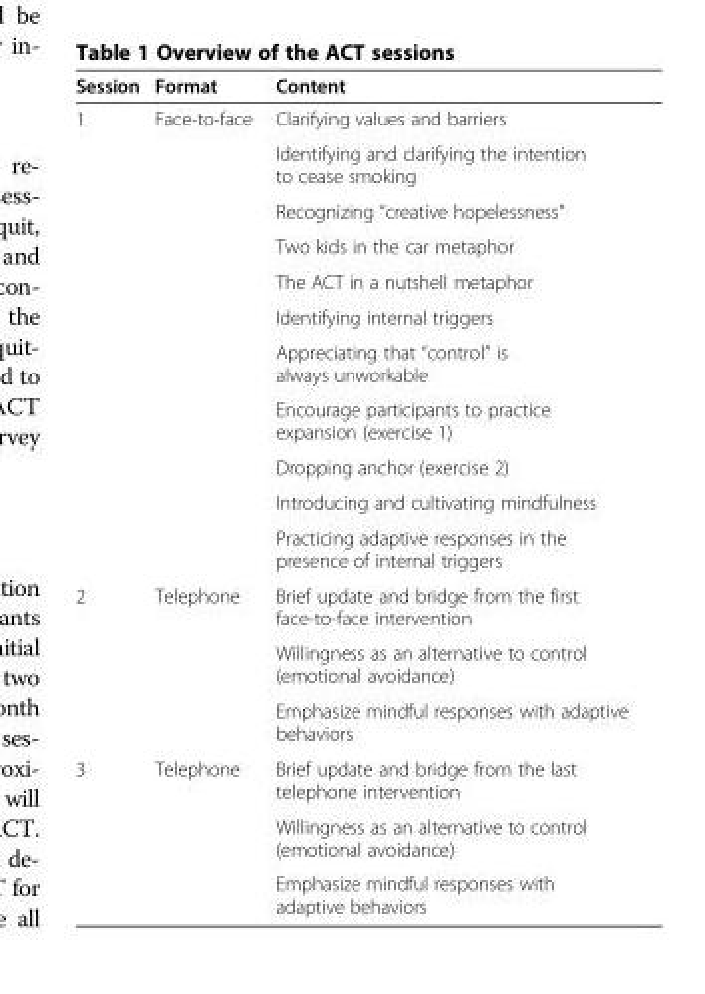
<table><thead><tr><td>Session</td><td>Format</td><td>Content</td></tr></thead><tbody><tr><td rowspan="11">1</td><td rowspan="11">Face-to-face</td><td>Clarifying values and barriers</td></tr><tr><td>Identifying and clarifying the intention to cease smoking</td></tr><tr><td>Recognizing “creative hopelessness”</td></tr><tr><td>Two kids in the car metaphor</td></tr><tr><td>The ACT in a nutshell metaphor</td></tr><tr><td>Identifying internal triggers</td></tr><tr><td>Appreciating that “control” is always unworkable</td></tr><tr><td>Encourage participants to practice expansion (exercise 1)</td></tr><tr><td>Dropping anchor (exercise 2)</td></tr><tr><td>Introducing and cultivating mindfulness</td></tr><tr><td>Practicing adaptive responses in the presence of internal triggers</td></tr><tr><td rowspan="3">2</td><td rowspan="3">Telephone</td><td>Brief update and bridge from the first face-to-face intervention</td></tr><tr><td>Willingness as an alternative to control (emotional avoidance)</td></tr><tr><td>Emphasize mindful responses with adaptive behaviors</td></tr><tr><td rowspan="3">3</td><td rowspan="3">Telephone</td><td>Brief update and bridge from the last telephone intervention</td></tr><tr><td>Willingness as an alternative to control (emotional avoidance)</td></tr><tr><td>Emphasize mindful responses with adaptive behaviors</td></tr></tbody></table>